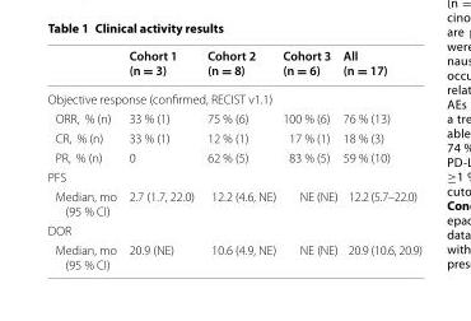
<table><thead><tr><td></td><td>Cohort 1 (n = 3)</td><td>Cohort 2 (n = 8)</td><td>Cohort 3 (n = 6)</td><td>All (n = 17)</td></tr></thead><tbody><tr><td colspan="5">Objective response (confirmed, RECIST v1.1)</td></tr><tr><td>ORR, % (n)</td><td>33 % (1)</td><td>75 % (6)</td><td>100 % (6)</td><td>76 % (13)</td></tr><tr><td>CR, % (n)</td><td>33 % (1)</td><td>12 % (1)</td><td>17 % (1)</td><td>18 % (3)</td></tr><tr><td>PR, % (n)</td><td>0</td><td>62 % (5)</td><td>83 % (5)</td><td>59 % (10)</td></tr><tr><td colspan="5">PFS</td></tr><tr><td>Median, mo (95 % CI)</td><td>2.7 (1.7, 22.0)</td><td>12.2 (4.6, NE)</td><td>NE (NE)</td><td>12.2 (5.7–22.0)</td></tr><tr><td colspan="5">DOR</td></tr><tr><td>Median, mo (95 % CI)</td><td>20.9 (NE)</td><td>10.6 (4.9, NE)</td><td>NE (NE)</td><td>20.9 (10.6, 20.9)</td></tr></tbody></table>